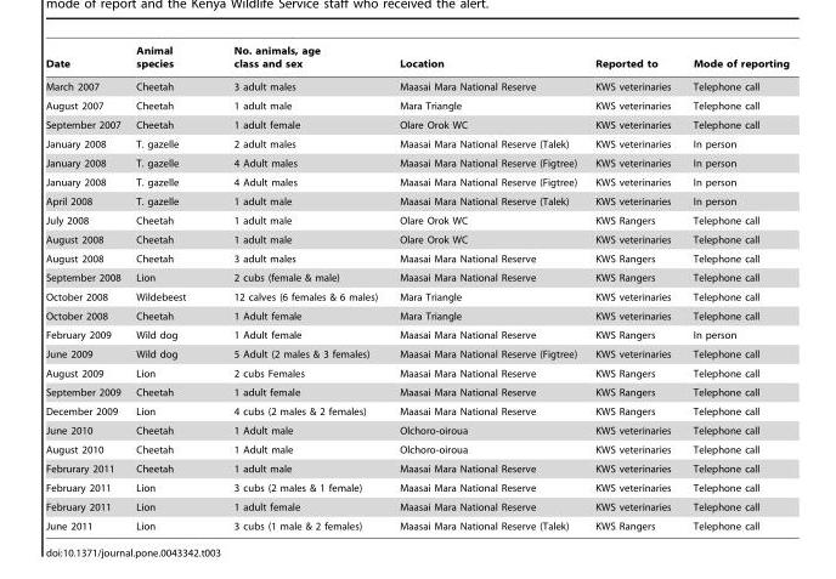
<table><thead><tr><td>Date</td><td>Animal species</td><td>No. animals, age class and sex</td><td>Location</td><td>Reported to</td><td>Mode of reporting</td></tr></thead><tbody><tr><td>March 2007</td><td>Cheetah</td><td>3 adult males</td><td>Maasai Mara National Reserve</td><td>KWS veterinaries</td><td>Telephone call</td></tr><tr><td>August 2007</td><td>Cheetah</td><td>1 adult male</td><td>Mara Triangle</td><td>KWS veterinaries</td><td>Telephone call</td></tr><tr><td>September 2007</td><td>Cheetah</td><td>1 adult female</td><td>Olare Orok WC</td><td>KWS veterinaries</td><td>Telephone call</td></tr><tr><td>January 2008</td><td>T. gazelle</td><td>2 adult males</td><td>Maasai Mara National Reserve (Talek)</td><td>KWS veterinaries</td><td>In person</td></tr><tr><td>January 2008</td><td>T. gazelle</td><td>4 Adult males</td><td>Maasai Mara National Reserve (Figtree)</td><td>KWS veterinaries</td><td>In person</td></tr><tr><td>January 2008</td><td>T. gazelle</td><td>4 Adult males</td><td>Maasai Mara National Reserve (Figtree)</td><td>KWS veterinaries</td><td>In person</td></tr><tr><td>April 2008</td><td>T. gazelle</td><td>1 adult male</td><td>Maasai Mara National Reserve (Talek)</td><td>KWS veterinaries</td><td>In person</td></tr><tr><td>July 2008</td><td>Cheetah</td><td>1 adult male</td><td>Olare Orok WC</td><td>KWS Rangers</td><td>Telephone call</td></tr><tr><td>August 2008</td><td>Cheetah</td><td>1 adult male</td><td>Olare Orok WC</td><td>KWS veterinaries</td><td>Telephone call</td></tr><tr><td>August 2008</td><td>Cheetah</td><td>3 adult males</td><td>Maasai Mara National Reserve</td><td>KWS Rangers</td><td>Telephone call</td></tr><tr><td>September 2008</td><td>Lion</td><td>2 cubs (female &amp; male)</td><td>Maasai Mara National Reserve</td><td>KWS Rangers</td><td>Telephone call</td></tr><tr><td>October 2008</td><td>Wildebeest</td><td>12 calves (6 females &amp; 6 males)</td><td>Mara Triangle</td><td>KWS veterinaries</td><td>Telephone call</td></tr><tr><td>October 2008</td><td>Cheetah</td><td>1 Adult female</td><td>Mara Triangle</td><td>KWS veterinaries</td><td>Telephone call</td></tr><tr><td>February 2009</td><td>Wild dog</td><td>1 Adult female</td><td>Maasai Mara National Reserve</td><td>KWS Rangers</td><td>In person</td></tr><tr><td>June 2009</td><td>Wild dog</td><td>5 Adult (2 males &amp; 3 females)</td><td>Maasai Mara National Reserve (Figtree)</td><td>KWS veterinaries</td><td>Telephone call</td></tr><tr><td>August 2009</td><td>Lion</td><td>2 cubs Females</td><td>Maasai Mara National Reserve</td><td>KWS Rangers</td><td>Telephone call</td></tr><tr><td>September 2009</td><td>Cheetah</td><td>1 adult female</td><td>Maasai Mara National Reserve</td><td>KWS Rangers</td><td>Telephone call</td></tr><tr><td>December 2009</td><td>Lion</td><td>4 cubs (2 males &amp; 2 females)</td><td>Maasai Mara National Reserve</td><td>KWS Rangers</td><td>Telephone call</td></tr><tr><td>June 2010</td><td>Cheetah</td><td>1 Adult male</td><td>Olchoro-oiroua</td><td>KWS veterinaries</td><td>Telephone call</td></tr><tr><td>August 2010</td><td>Cheetah</td><td>1 Adult male</td><td>Olchoro-oiroua</td><td>KWS veterinaries</td><td>Telephone call</td></tr><tr><td>Februrary 2011</td><td>Cheetah</td><td>1 adult male</td><td>Maasai Mara National Reserve</td><td>KWS veterinaries</td><td>Telephone call</td></tr><tr><td>February 2011</td><td>Lion</td><td>3 cubs (2 males &amp; 1 female)</td><td>Maasai Mara National Reserve</td><td>KWS veterinaries</td><td>Telephone call</td></tr><tr><td>February 2011</td><td>Lion</td><td>1 adult female</td><td>Maasai Mara National Reserve</td><td>KWS veterinaries</td><td>Telephone call</td></tr><tr><td>June 2011</td><td>Lion</td><td>3 cubs (1 male &amp; 2 females)</td><td>Maasai Mara National Reserve (Talek)</td><td>KWS Rangers</td><td>Telephone call</td></tr></tbody></table>